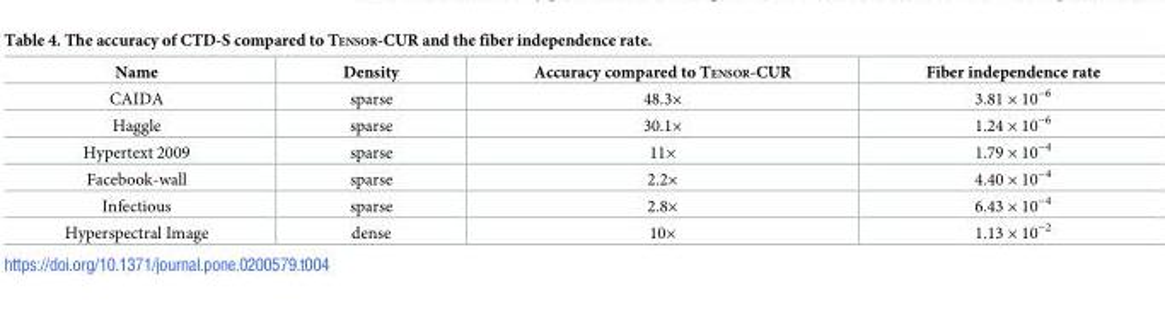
<table><thead><tr><td>Name</td><td>Density</td><td>Accuracy compared to TENSOR-CUR</td><td>Fiber independence rate</td></tr></thead><tbody><tr><td>CAIDA</td><td>sparse</td><td>48.3×</td><td>3.81 × 10<sup>−6</sup></td></tr><tr><td>Haggle</td><td>sparse</td><td>30.1×</td><td>1.24 × 10<sup>−6</sup></td></tr><tr><td>Hypertext 2009</td><td>sparse</td><td>11×</td><td>1.79 × 10<sup>−4</sup></td></tr><tr><td>Facebook-wall</td><td>sparse</td><td>2.2×</td><td>4.40 × 10<sup>−4</sup></td></tr><tr><td>Infectious</td><td>sparse</td><td>2.8×</td><td>6.43 × 10<sup>−4</sup></td></tr><tr><td>Hyperspectral Image</td><td>dense</td><td>10×</td><td>1.13 × 10<sup>−2</sup></td></tr></tbody></table>